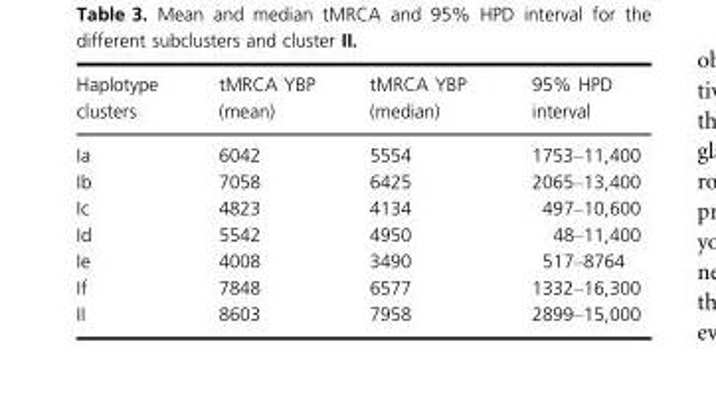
<table><thead><tr><td>Haplotype clusters</td><td>tMRCA YBP (mean)</td><td>tMRCA YBP (median)</td><td>95% HPD interval</td></tr></thead><tbody><tr><td>Ia</td><td>6042</td><td>5554</td><td>1753–11,400</td></tr><tr><td>Ib</td><td>7058</td><td>6425</td><td>2065–13,400</td></tr><tr><td>Ic</td><td>4823</td><td>4134</td><td>497–10,600</td></tr><tr><td>Id</td><td>5542</td><td>4950</td><td>48–11,400</td></tr><tr><td>Ie</td><td>4008</td><td>3490</td><td>517–8764</td></tr><tr><td>If</td><td>7848</td><td>6577</td><td>1332–16,300</td></tr><tr><td>II</td><td>8603</td><td>7958</td><td>2899–15,000</td></tr></tbody></table>